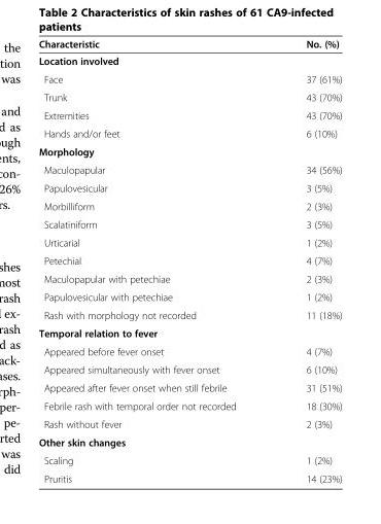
<table><thead><tr><td>Characteristic</td><td>No. (%)</td></tr></thead><tbody><tr><td colspan="2">Location involved</td></tr><tr><td>Face</td><td>37 (61%)</td></tr><tr><td>Trunk</td><td>43 (70%)</td></tr><tr><td>Extremities</td><td>43 (70%)</td></tr><tr><td>Hands and/or feet</td><td>6 (10%)</td></tr><tr><td colspan="2">Morphology</td></tr><tr><td>Maculopapular</td><td>34 (56%)</td></tr><tr><td>Papulovesicular</td><td>3 (5%)</td></tr><tr><td>Morbilliform</td><td>2 (3%)</td></tr><tr><td>Scalatiniform</td><td>3 (5%)</td></tr><tr><td>Urticarial</td><td>1 (2%)</td></tr><tr><td>Petechial</td><td>4 (7%)</td></tr><tr><td>Maculopapular with petechiae</td><td>2 (3%)</td></tr><tr><td>Papulovesicular with petechiae</td><td>1 (2%)</td></tr><tr><td>Rash with morphology not recorded</td><td>11 (18%)</td></tr><tr><td colspan="2">Temporal relation to fever</td></tr><tr><td>Appeared before fever onset</td><td>4 (7%)</td></tr><tr><td>Appeared simultaneously with fever onset</td><td>6 (10%)</td></tr><tr><td>Appeared after fever onset when still febrile</td><td>31 (51%)</td></tr><tr><td>Febrile rash with temporal order not recorded</td><td>18 (30%)</td></tr><tr><td>Rash without fever</td><td>2 (3%)</td></tr><tr><td colspan="2">Other skin changes</td></tr><tr><td>Scaling</td><td>1 (2%)</td></tr><tr><td>Pruritis</td><td>14 (23%)</td></tr></tbody></table>